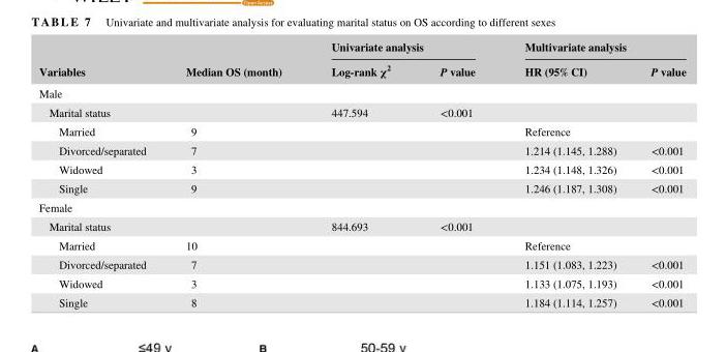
<table><thead><tr><td rowspan="2">Variables</td><td rowspan="2">Median OS (month)</td><td colspan="2">Univariate analysis</td><td colspan="2">Multivariate analysis</td></tr><tr><td>Log- rank χ<sup>2</sup></td><td>P value</td><td>HR (95% CI)</td><td>P value</td></tr></thead><tbody><tr><td colspan="6">Male</td></tr><tr><td>Marital status</td><td></td><td>447.594</td><td>&lt;0.001</td><td></td><td></td></tr><tr><td>Married</td><td>9</td><td></td><td></td><td>Reference</td><td></td></tr><tr><td>Divorced/separated</td><td>7</td><td></td><td></td><td>1.214 (1.145, 1.288)</td><td>&lt;0.001</td></tr><tr><td>Widowed</td><td>3</td><td></td><td></td><td>1.234 (1.148, 1.326)</td><td>&lt;0.001</td></tr><tr><td>Single</td><td>9</td><td></td><td></td><td>1.246 (1.187, 1.308)</td><td>&lt;0.001</td></tr><tr><td colspan="6">Female</td></tr><tr><td>Marital status</td><td></td><td>844.693</td><td>&lt;0.001</td><td></td><td></td></tr><tr><td>Married</td><td>10</td><td></td><td></td><td>Reference</td><td></td></tr><tr><td>Divorced/separated</td><td>7</td><td></td><td></td><td>1.151 (1.083, 1.223)</td><td>&lt;0.001</td></tr><tr><td>Widowed</td><td>3</td><td></td><td></td><td>1.133 (1.075, 1.193)</td><td>&lt;0.001</td></tr><tr><td>Single</td><td>8</td><td></td><td></td><td>1.184 (1.114, 1.257)</td><td>&lt;0.001</td></tr></tbody></table>